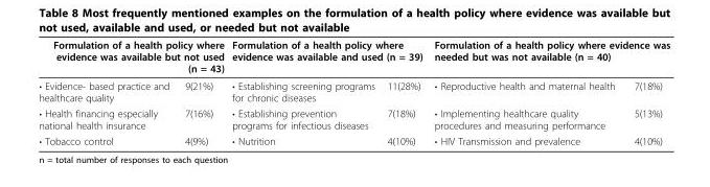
<table><thead><tr><td colspan="2">Formulation of a health policy where evidence was available but not used (n = 43)</td><td colspan="2">Formulation of a health policy where evidence was available and used (n = 39)</td><td colspan="2">Formulation of a health policy where evidence was needed but was not available (n = 40)</td></tr><tr><td>• Evidence- based practice and healthcare quality</td><td>9(21%)</td><td>• Establishing screening programs for chronic diseases</td><td>11(28%)</td><td>• Reproductive health and maternal health</td><td>7(18%)</td></tr></thead><tbody><tr><td>• Health financing especially national health insurance</td><td>7(16%)</td><td>• Establishing prevention programs for infectious diseases</td><td>7(18%)</td><td>• Implementing healthcare quality procedures and measuring performance</td><td>5(13%)</td></tr><tr><td>• Tobacco control</td><td>4(9%)</td><td>• Nutrition</td><td>4(10%)</td><td>• HIV Transmission and prevalence</td><td>4(10%)</td></tr></tbody></table>